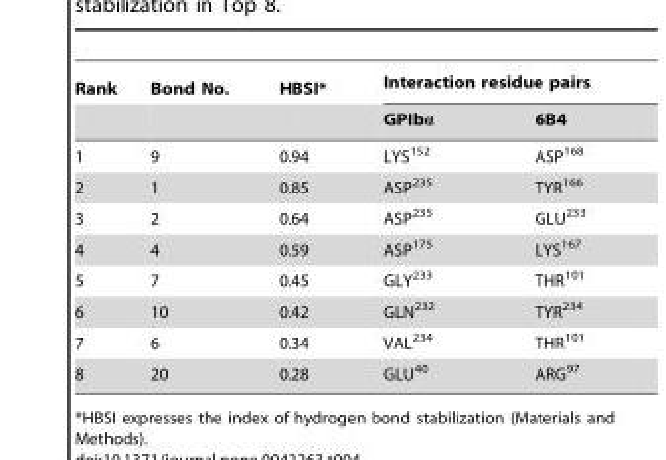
<table><thead><tr><td rowspan="2">Rank</td><td rowspan="2">Bond No.</td><td rowspan="2">HBSI*</td><td colspan="2">Interaction residue pairs</td></tr><tr><td>GPIbα</td><td>6B4</td></tr></thead><tbody><tr><td>1</td><td>9</td><td>0.94</td><td>LYS<sup>152</sup></td><td>ASP<sup>168</sup></td></tr><tr><td>2</td><td>1</td><td>0.85</td><td>ASP<sup>235</sup></td><td>TYR<sup>166</sup></td></tr><tr><td>3</td><td>2</td><td>0.64</td><td>ASP<sup>235</sup></td><td>GLU<sup>233</sup></td></tr><tr><td>4</td><td>4</td><td>0.59</td><td>ASP<sup>175</sup></td><td>LYS<sup>167</sup></td></tr><tr><td>5</td><td>7</td><td>0.45</td><td>GLY<sup>233</sup></td><td>THR<sup>101</sup></td></tr><tr><td>6</td><td>10</td><td>0.42</td><td>GLN<sup>232</sup></td><td>TYR<sup>234</sup></td></tr><tr><td>7</td><td>6</td><td>0.34</td><td>VAL<sup>234</sup></td><td>THR<sup>101</sup></td></tr><tr><td>8</td><td>20</td><td>0.28</td><td>GLU<sup>40</sup></td><td>ARG<sup>97</sup></td></tr></tbody></table>